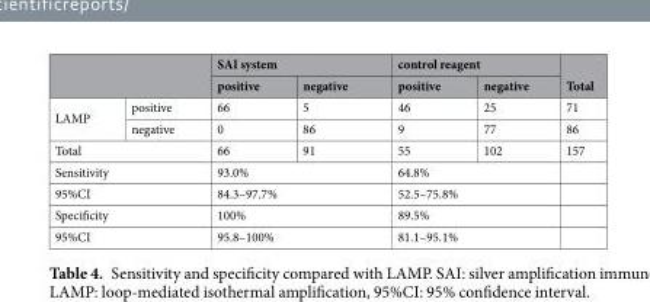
<table><thead><tr><td rowspan="2"></td><td rowspan="2"></td><td colspan="2">SAI system</td><td colspan="2">control reagent</td><td rowspan="2">Total</td></tr><tr><td>positive</td><td>negative</td><td>positive</td><td>negative</td></tr></thead><tbody><tr><td rowspan="2">LAMP</td><td>positive</td><td>66</td><td>5</td><td>46</td><td>25</td><td>71</td></tr><tr><td>negative</td><td>0</td><td>86</td><td>9</td><td>77</td><td>86</td></tr><tr><td colspan="2">Total</td><td>66</td><td>91</td><td>55</td><td>102</td><td>157</td></tr><tr><td colspan="2">Sensitivity</td><td colspan="2">93.0%</td><td colspan="2">64.8%</td><td></td></tr><tr><td colspan="2">95%CI</td><td colspan="2">84.3–97.7%</td><td colspan="2">52.5–75.8%</td><td></td></tr><tr><td colspan="2">Specificity</td><td colspan="2">100%</td><td colspan="2">89.5%</td><td></td></tr><tr><td colspan="2">95%CI</td><td colspan="2">95.8–100%</td><td colspan="2">81.1–95.1%</td><td></td></tr></tbody></table>